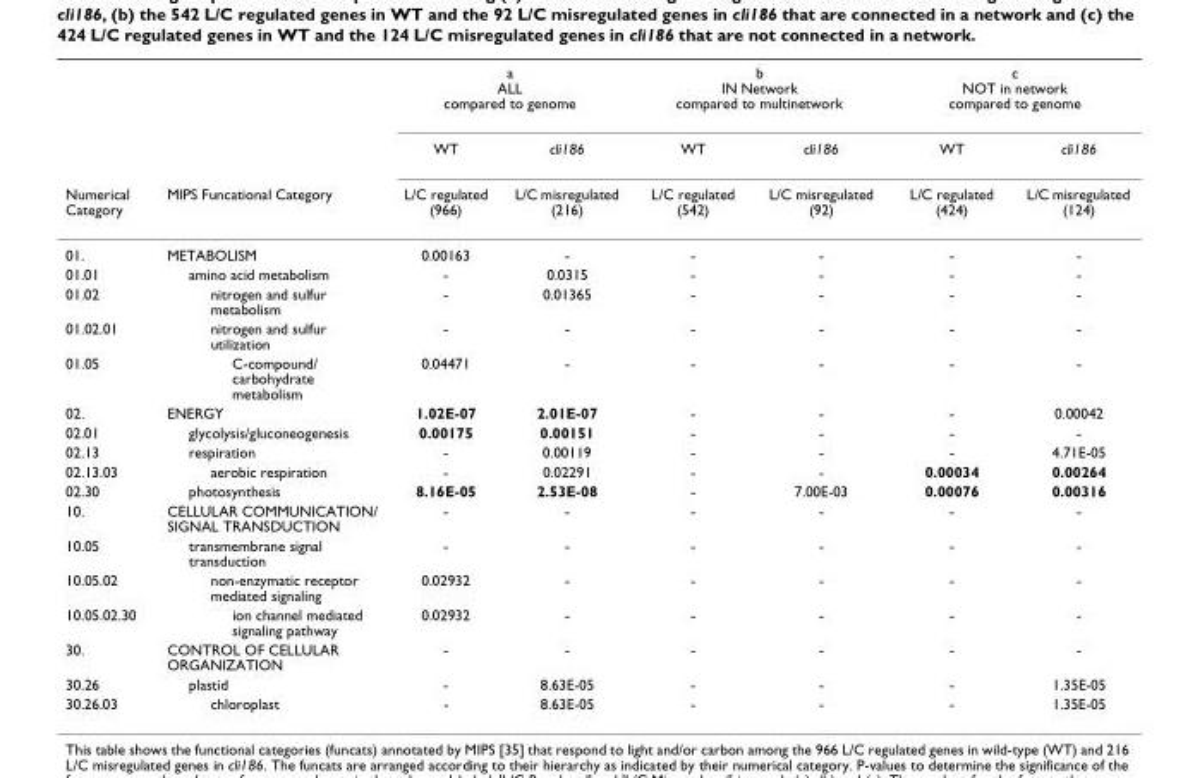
<table><thead><tr><td rowspan="3">Numerical Category</td><td rowspan="3">MIPS Funcational Category</td><td colspan="2">a ALL compared to genome</td><td colspan="2">b IN Network compared to multinetwork</td><td colspan="2">c NOT in network compared to genome</td></tr><tr><td rowspan="2">WT L/C regulated (966)</td><td rowspan="2">cli186 L/C misregulated (216)</td><td rowspan="2">WT L/C regulated (542)</td><td rowspan="2">cli186 L/C misregulated (92)</td><td rowspan="2">WT L/C regulated (424)</td><td rowspan="2">cli186 L/C misregulated (124)</td></tr><tr></tr></thead><tbody><tr><td>01.</td><td>METABOLISM</td><td>0.00163</td><td>-</td><td>-</td><td>-</td><td>-</td><td>-</td></tr><tr><td>01.01</td><td>amino acid metabolism</td><td>-</td><td>0.0315</td><td>-</td><td>-</td><td>-</td><td>-</td></tr><tr><td>01.02</td><td>nitrogen and sulfur metabolism</td><td>-</td><td>0.01365</td><td>-</td><td>-</td><td>-</td><td>-</td></tr><tr><td>01.02.01</td><td>nitrogen and sulfur utilization</td><td>-</td><td>-</td><td>-</td><td>-</td><td>-</td><td>-</td></tr><tr><td>01.05</td><td>C-compound/ carbohydrate metabolism</td><td>0.04471</td><td>-</td><td>-</td><td>-</td><td>-</td><td>-</td></tr><tr><td>02.</td><td>ENERGY</td><td>1.02E-07</td><td>2.01E-07</td><td>-</td><td>-</td><td>-</td><td>0.00042</td></tr><tr><td>02.01</td><td>glycolysis/gluconeogenesis</td><td>0.00175</td><td>0.00151</td><td>-</td><td>-</td><td>-</td><td>-</td></tr><tr><td>02.13</td><td>respiration</td><td>-</td><td>0.00119</td><td>-</td><td>-</td><td>-</td><td>4.71E-05</td></tr><tr><td>02.13.03</td><td>aerobic respiration</td><td>-</td><td>0.02291</td><td>-</td><td>-</td><td>0.00034</td><td>0.00264</td></tr><tr><td>02.30</td><td>photosynthesis</td><td>8.16E-05</td><td>2.53E-08</td><td>-</td><td>7.00E-03</td><td>0.00076</td><td>0.00316</td></tr><tr><td>10.</td><td>CELLULAR COMMUNICATION/ SIGNAL TRANSDUCTION</td><td>-</td><td>-</td><td>-</td><td>-</td><td>-</td><td>-</td></tr><tr><td>10.05</td><td>transmembrane signal transduction</td><td>-</td><td>-</td><td>-</td><td>-</td><td>-</td><td>-</td></tr><tr><td>10.05.02</td><td>non-enzymatic receptor mediated signaling</td><td>0.02932</td><td>-</td><td>-</td><td>-</td><td>-</td><td>-</td></tr><tr><td>10.05.02.30</td><td>ion channel mediated signaling pathway</td><td>0.02932</td><td>-</td><td>-</td><td>-</td><td>-</td><td>-</td></tr><tr><td>30.</td><td>CONTROL OF CELLULAR ORGANIZATION</td><td>-</td><td>-</td><td>-</td><td>-</td><td>-</td><td>-</td></tr><tr><td>30.26</td><td>plastid</td><td>-</td><td>8.63E-05</td><td>-</td><td>-</td><td>-</td><td>1.35E-05</td></tr><tr><td>30.26.03</td><td>chloroplast</td><td>-</td><td>8.63E-05</td><td>-</td><td>-</td><td>-</td><td>1.35E-05</td></tr></tbody></table>